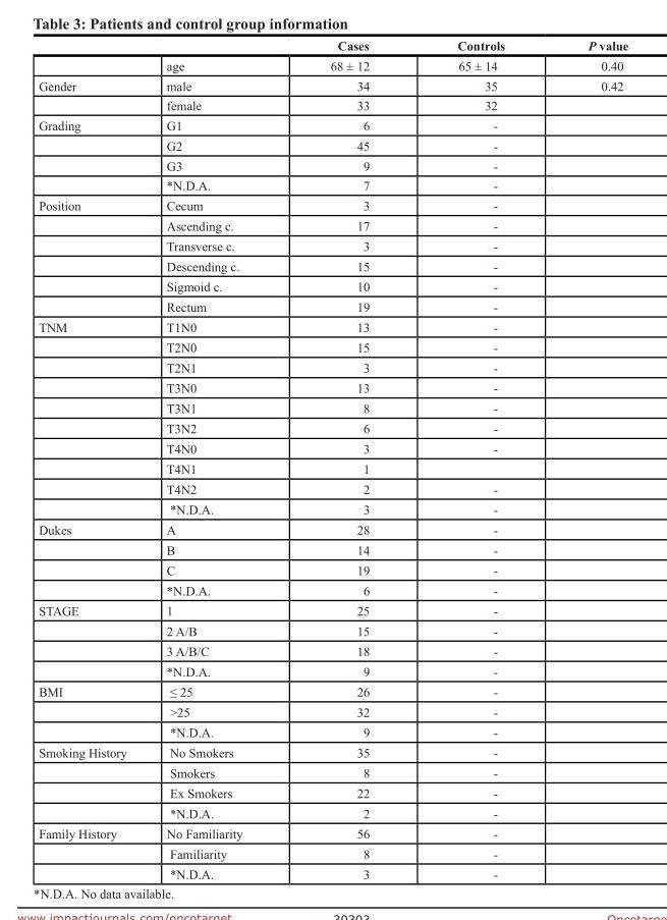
<table><thead><tr><td></td><td></td><td>Cases</td><td>Controls</td><td>P value</td></tr></thead><tbody><tr><td></td><td>age</td><td>68 ± 12</td><td>65 ± 14</td><td>0.40</td></tr><tr><td rowspan="2">Gender</td><td>male</td><td>34</td><td>35</td><td>0.42</td></tr><tr><td>female</td><td>33</td><td>32</td><td></td></tr><tr><td rowspan="4">Grading</td><td>G1</td><td>6</td><td>-</td><td></td></tr><tr><td>G2</td><td>45</td><td>-</td><td></td></tr><tr><td>G3</td><td>9</td><td>-</td><td></td></tr><tr><td>*N.D.A.</td><td>7</td><td>-</td><td></td></tr><tr><td rowspan="6">Position</td><td>Cecum</td><td>3</td><td>-</td><td></td></tr><tr><td>Ascending c.</td><td>17</td><td>-</td><td></td></tr><tr><td>Transverse c.</td><td>3</td><td>-</td><td></td></tr><tr><td>Descending c.</td><td>15</td><td>-</td><td></td></tr><tr><td>Sigmoid c.</td><td>10</td><td>-</td><td></td></tr><tr><td>Rectum</td><td>19</td><td>-</td><td></td></tr><tr><td rowspan="10">TNM</td><td>T1N0</td><td>13</td><td>-</td><td></td></tr><tr><td>T2N0</td><td>15</td><td>-</td><td></td></tr><tr><td>T2N1</td><td>3</td><td>-</td><td></td></tr><tr><td>T3N0</td><td>13</td><td>-</td><td></td></tr><tr><td>T3N1</td><td>8</td><td>-</td><td></td></tr><tr><td>T3N2</td><td>6</td><td>-</td><td></td></tr><tr><td>T4N0</td><td>3</td><td>-</td><td></td></tr><tr><td>T4N1</td><td>1</td><td></td><td></td></tr><tr><td>T4N2</td><td>2</td><td>-</td><td></td></tr><tr><td>*N.D.A.</td><td>3</td><td>-</td><td></td></tr><tr><td rowspan="4">Dukes</td><td>A</td><td>28</td><td>-</td><td></td></tr><tr><td>B</td><td>14</td><td>-</td><td></td></tr><tr><td>C</td><td>19</td><td>-</td><td></td></tr><tr><td>*N.D.A.</td><td>6</td><td>-</td><td></td></tr><tr><td rowspan="4">STAGE</td><td>1</td><td>25</td><td>-</td><td></td></tr><tr><td>2 A/B</td><td>15</td><td>-</td><td></td></tr><tr><td>3 A/B/C</td><td>18</td><td>-</td><td></td></tr><tr><td>*N.D.A.</td><td>9</td><td>-</td><td></td></tr><tr><td rowspan="3">BMI</td><td>≤ 25</td><td>26</td><td>-</td><td></td></tr><tr><td>&gt;25</td><td>32</td><td>-</td><td></td></tr><tr><td>*N.D.A.</td><td>9</td><td>-</td><td></td></tr><tr><td rowspan="4">Smoking History</td><td>No Smokers</td><td>35</td><td>-</td><td></td></tr><tr><td>Smokers</td><td>8</td><td>-</td><td></td></tr><tr><td>Ex Smokers</td><td>22</td><td>-</td><td></td></tr><tr><td>*N.D.A.</td><td>2</td><td>-</td><td></td></tr><tr><td rowspan="3">Family History</td><td>No Familiarity</td><td>56</td><td>-</td><td></td></tr><tr><td>Familiarity</td><td>8</td><td>-</td><td></td></tr><tr><td>*N.D.A.</td><td>3</td><td>-</td><td></td></tr></tbody></table>